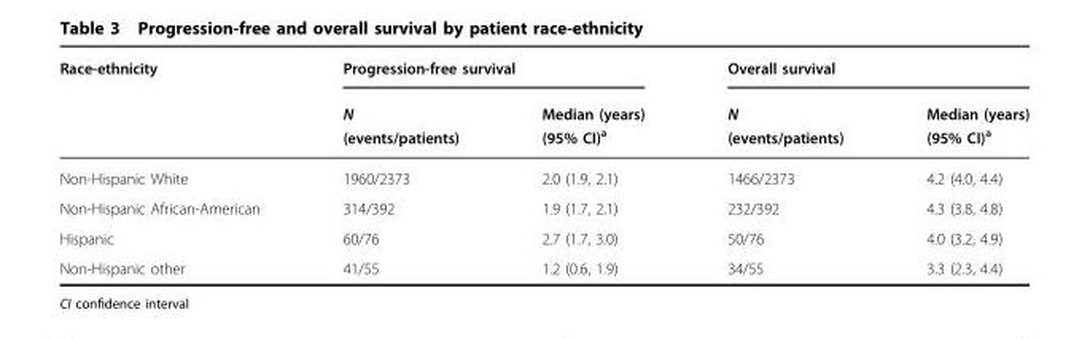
<table><thead><tr><td rowspan="2">Race-ethnicity</td><td colspan="2">Progression-free survival</td><td colspan="2">Overall survival</td></tr><tr><td>N (events/patients)</td><td>Median (years) (95% CI)<sup>a</sup></td><td>N (events/patients)</td><td>Median (years) (95% CI)<sup>a</sup></td></tr></thead><tbody><tr><td>Non-Hispanic White</td><td>1960/2373</td><td>2.0 (1.9, 2.1)</td><td>1466/2373</td><td>4.2 (4.0, 4.4)</td></tr><tr><td>Non-Hispanic African-American</td><td>314/392</td><td>1.9 (1.7, 2.1)</td><td>232/392</td><td>4.3 (3.8, 4.8)</td></tr><tr><td>Hispanic</td><td>60/76</td><td>2.7 (1.7, 3.0)</td><td>50/76</td><td>4.0 (3.2, 4.9)</td></tr><tr><td>Non-Hispanic other</td><td>41/55</td><td>1.2 (0.6, 1.9)</td><td>34/55</td><td>3.3 (2.3, 4.4)</td></tr></tbody></table>